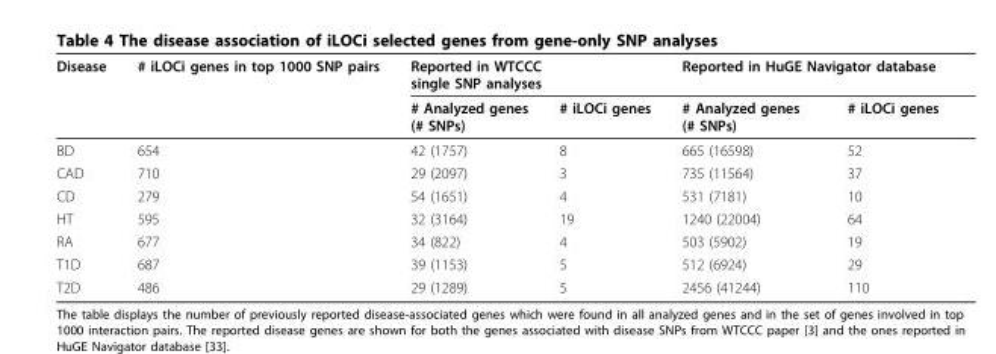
<table><thead><tr><td rowspan="2">Disease</td><td rowspan="2"># iLOCi genes in top 1000 SNP pairs</td><td colspan="2">Reported in WTCCC single SNP analyses</td><td colspan="2">Reported in HuGE Navigator database</td></tr><tr><td># Analyzed genes (# SNPs)</td><td># iLOCi genes</td><td># Analyzed genes (# SNPs)</td><td># iLOCi genes</td></tr></thead><tbody><tr><td>BD</td><td>654</td><td>42 (1757)</td><td>8</td><td>665 (16598)</td><td>52</td></tr><tr><td>CAD</td><td>710</td><td>29 (2097)</td><td>3</td><td>735 (11564)</td><td>37</td></tr><tr><td>CD</td><td>279</td><td>54 (1651)</td><td>4</td><td>531 (7181)</td><td>10</td></tr><tr><td>HT</td><td>595</td><td>32 (3164)</td><td>19</td><td>1240 (22004)</td><td>64</td></tr><tr><td>RA</td><td>677</td><td>34 (822)</td><td>4</td><td>503 (5902)</td><td>19</td></tr><tr><td>T1D</td><td>687</td><td>39 (1153)</td><td>5</td><td>512 (6924)</td><td>29</td></tr><tr><td>T2D</td><td>486</td><td>29 (1289)</td><td>5</td><td>2456 (41244)</td><td>110</td></tr></tbody></table>